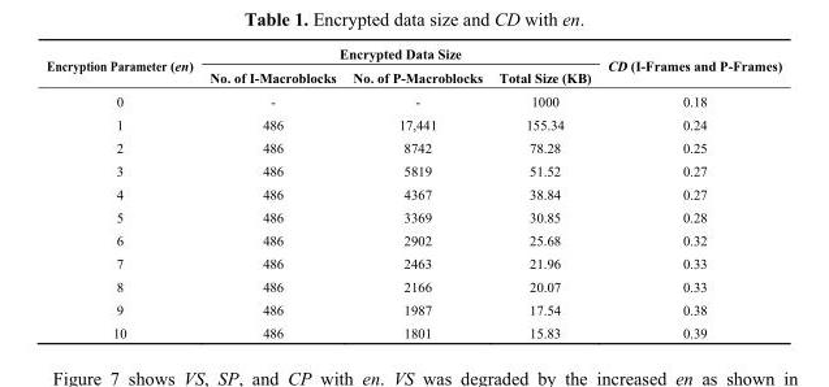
<table><thead><tr><td rowspan="2">Encryption Parameter (en)</td><td colspan="3">Encrypted Data Size</td><td rowspan="2">CD (I-Frames and P-Frames)</td></tr><tr><td>No. of I-Macroblocks</td><td>No. of P-Macroblocks</td><td>Total Size (KB)</td></tr></thead><tbody><tr><td>0</td><td>-</td><td>-</td><td>1000</td><td>0.18</td></tr><tr><td>1</td><td>486</td><td>17,441</td><td>155.34</td><td>0.24</td></tr><tr><td>2</td><td>486</td><td>8742</td><td>78.28</td><td>0.25</td></tr><tr><td>3</td><td>486</td><td>5819</td><td>51.52</td><td>0.27</td></tr><tr><td>4</td><td>486</td><td>4367</td><td>38.84</td><td>0.27</td></tr><tr><td>5</td><td>486</td><td>3369</td><td>30.85</td><td>0.28</td></tr><tr><td>6</td><td>486</td><td>2902</td><td>25.68</td><td>0.32</td></tr><tr><td>7</td><td>486</td><td>2463</td><td>21.96</td><td>0.33</td></tr><tr><td>8</td><td>486</td><td>2166</td><td>20.07</td><td>0.33</td></tr><tr><td>9</td><td>486</td><td>1987</td><td>17.54</td><td>0.38</td></tr><tr><td>10</td><td>486</td><td>1801</td><td>15.83</td><td>0.39</td></tr></tbody></table>